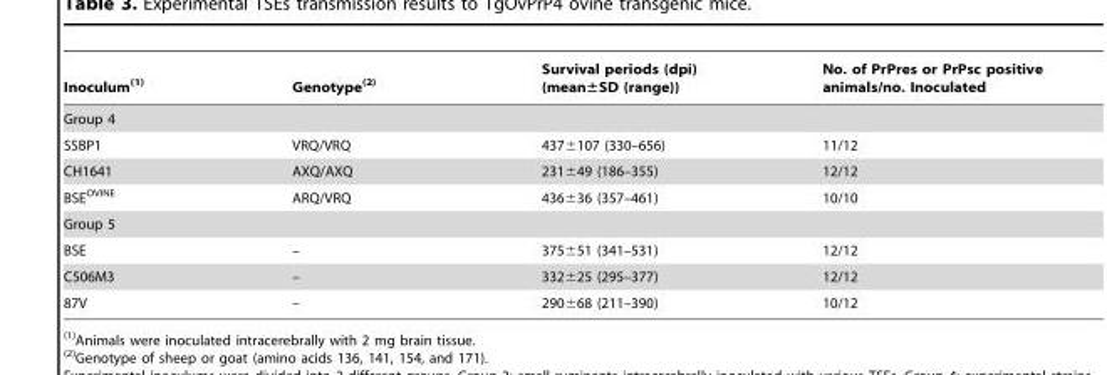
<table><thead><tr><td>Inoculum(1)</td><td>Genotype(2)</td><td>Survival periods (dpi) (mean±SD (range))</td><td>No. of PrPres or PrPsc positive animals/no. Inoculated</td></tr></thead><tbody><tr><td colspan="4">Group 4</td></tr><tr><td>SSBP1</td><td>VRQ/VRQ</td><td>437±107 (330–656)</td><td>11/12</td></tr><tr><td>CH1641</td><td>AXQ/AXQ</td><td>231±49 (186–355)</td><td>12/12</td></tr><tr><td>BSE<sup>OVINE</sup></td><td>ARQ/VRQ</td><td>436±36 (357–461)</td><td>10/10</td></tr><tr><td colspan="4">Group 5</td></tr><tr><td>BSE</td><td>–</td><td>375±51 (341–531)</td><td>12/12</td></tr><tr><td>C506M3</td><td>–</td><td>332±25 (295–377)</td><td>12/12</td></tr><tr><td>87V</td><td>–</td><td>290±68 (211–390)</td><td>10/12</td></tr></tbody></table>